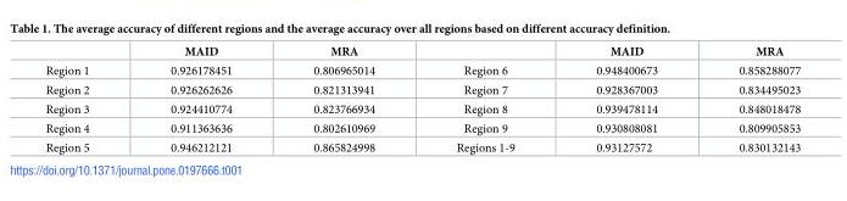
<table><thead><tr><td></td><td>MAID</td><td>MRA</td><td></td><td>MAID</td><td>MRA</td></tr></thead><tbody><tr><td>Region 1</td><td>0.926178451</td><td>0.806965014</td><td>Region 6</td><td>0.948400673</td><td>0.858288077</td></tr><tr><td>Region 2</td><td>0.926262626</td><td>0.821313941</td><td>Region 7</td><td>0.928367003</td><td>0.834495023</td></tr><tr><td>Region 3</td><td>0.924410774</td><td>0.823766934</td><td>Region 8</td><td>0.939478114</td><td>0.848018478</td></tr><tr><td>Region 4</td><td>0.911363636</td><td>0.802610969</td><td>Region 9</td><td>0.930808081</td><td>0.809905853</td></tr><tr><td>Region 5</td><td>0.946212121</td><td>0.865824998</td><td>Regions 1-9</td><td>0.93127572</td><td>0.830132143</td></tr></tbody></table>